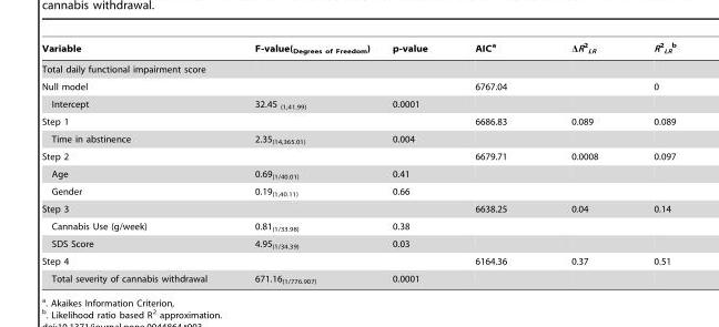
<table><thead><tr><td>Variable</td><td>F-value(<sub>Degrees of Freedom</sub>)</td><td>p-value</td><td>AIC<sup>a</sup></td><td>ΔR<sup>2</sup> <sub>LR</sub></td><td>R<sup>2</sup> <sub>LR</sub> b</td></tr></thead><tbody><tr><td colspan="6">Total daily functional impairment score</td></tr><tr><td>Null model</td><td></td><td></td><td>6767.04</td><td></td><td>0</td></tr><tr><td>Intercept</td><td>32.45 <sub>(1,41.99)</sub></td><td>0.0001</td><td></td><td></td><td></td></tr><tr><td>Step 1</td><td></td><td></td><td>6686.83</td><td>0.089</td><td>0.089</td></tr><tr><td>Time in abstinence</td><td>2.35<sub>(14,365.01)</sub></td><td>0.004</td><td></td><td></td><td></td></tr><tr><td>Step 2</td><td></td><td></td><td>6679.71</td><td>0.0008</td><td>0.097</td></tr><tr><td>Age</td><td>0.69<sub>(1/40.01)</sub></td><td>0.41</td><td></td><td></td><td></td></tr><tr><td>Gender</td><td>0.19<sub>(1,40.11)</sub></td><td>0.66</td><td></td><td></td><td></td></tr><tr><td>Step 3</td><td></td><td></td><td>6638.25</td><td>0.04</td><td>0.14</td></tr><tr><td>Cannabis Use (g/week)</td><td>0.81<sub>(1/33.98)</sub></td><td>0.38</td><td></td><td></td><td></td></tr><tr><td>SDS Score</td><td>4.95<sub>(1/34.39)</sub></td><td>0.03</td><td></td><td></td><td></td></tr><tr><td>Step 4</td><td></td><td></td><td>6164.36</td><td>0.37</td><td>0.51</td></tr><tr><td>Total severity of cannabis withdrawal</td><td>671.16<sub>(1/776.907)</sub></td><td>0.0001</td><td></td><td></td><td></td></tr></tbody></table>